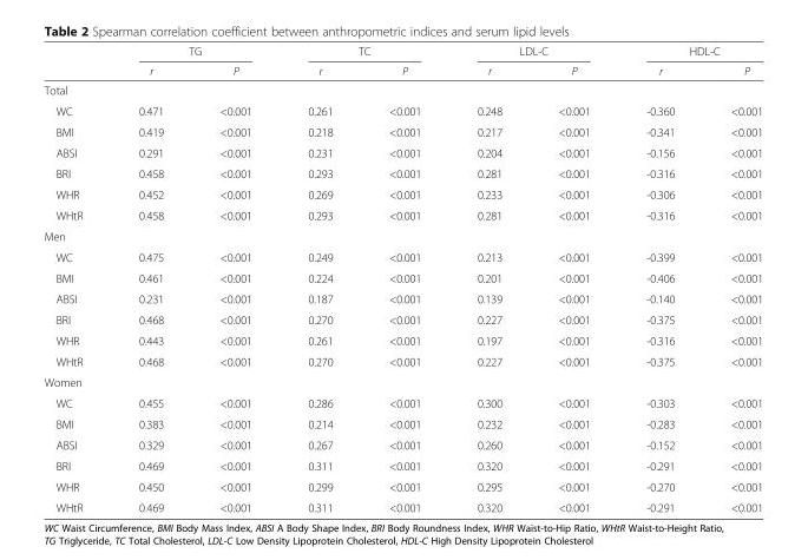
<table><thead><tr><td rowspan="2"></td><td colspan="2">TG</td><td colspan="2">TC</td><td colspan="2">LDL-C</td><td colspan="2">HDL-C</td></tr><tr><td>r</td><td>P</td><td>r</td><td>P</td><td>r</td><td>P</td><td>r</td><td>P</td></tr></thead><tbody><tr><td colspan="9">Total</td></tr><tr><td>WC</td><td>0.471</td><td>&lt;0.001</td><td>0.261</td><td>&lt;0.001</td><td>0.248</td><td>&lt;0.001</td><td>-0.360</td><td>&lt;0.001</td></tr><tr><td>BMI</td><td>0.419</td><td>&lt;0.001</td><td>0.218</td><td>&lt;0.001</td><td>0.217</td><td>&lt;0.001</td><td>-0.341</td><td>&lt;0.001</td></tr><tr><td>ABSI</td><td>0.291</td><td>&lt;0.001</td><td>0.231</td><td>&lt;0.001</td><td>0.204</td><td>&lt;0.001</td><td>-0.156</td><td>&lt;0.001</td></tr><tr><td>BRI</td><td>0.458</td><td>&lt;0.001</td><td>0.293</td><td>&lt;0.001</td><td>0.281</td><td>&lt;0.001</td><td>-0.316</td><td>&lt;0.001</td></tr><tr><td>WHR</td><td>0.452</td><td>&lt;0.001</td><td>0.269</td><td>&lt;0.001</td><td>0.233</td><td>&lt;0.001</td><td>-0.306</td><td>&lt;0.001</td></tr><tr><td>WHtR</td><td>0.458</td><td>&lt;0.001</td><td>0.293</td><td>&lt;0.001</td><td>0.281</td><td>&lt;0.001</td><td>-0.316</td><td>&lt;0.001</td></tr><tr><td colspan="9">Men</td></tr><tr><td>WC</td><td>0.475</td><td>&lt;0.001</td><td>0.249</td><td>&lt;0.001</td><td>0.213</td><td>&lt;0.001</td><td>-0.399</td><td>&lt;0.001</td></tr><tr><td>BMI</td><td>0.461</td><td>&lt;0.001</td><td>0.224</td><td>&lt;0.001</td><td>0.201</td><td>&lt;0.001</td><td>-0.406</td><td>&lt;0.001</td></tr><tr><td>ABSI</td><td>0.231</td><td>&lt;0.001</td><td>0.187</td><td>&lt;0.001</td><td>0.139</td><td>&lt;0.001</td><td>-0.140</td><td>&lt;0.001</td></tr><tr><td>BRI</td><td>0.468</td><td>&lt;0.001</td><td>0.270</td><td>&lt;0.001</td><td>0.227</td><td>&lt;0.001</td><td>-0.375</td><td>&lt;0.001</td></tr><tr><td>WHR</td><td>0.443</td><td>&lt;0.001</td><td>0.261</td><td>&lt;0.001</td><td>0.197</td><td>&lt;0.001</td><td>-0.316</td><td>&lt;0.001</td></tr><tr><td>WHtR</td><td>0.468</td><td>&lt;0.001</td><td>0.270</td><td>&lt;0.001</td><td>0.227</td><td>&lt;0.001</td><td>-0.375</td><td>&lt;0.001</td></tr><tr><td colspan="9">Women</td></tr><tr><td>WC</td><td>0.455</td><td>&lt;0.001</td><td>0.286</td><td>&lt;0.001</td><td>0.300</td><td>&lt;0.001</td><td>-0.303</td><td>&lt;0.001</td></tr><tr><td>BMI</td><td>0.383</td><td>&lt;0.001</td><td>0.214</td><td>&lt;0.001</td><td>0.232</td><td>&lt;0.001</td><td>-0.283</td><td>&lt;0.001</td></tr><tr><td>ABSI</td><td>0.329</td><td>&lt;0.001</td><td>0.267</td><td>&lt;0.001</td><td>0.260</td><td>&lt;0.001</td><td>-0.152</td><td>&lt;0.001</td></tr><tr><td>BRI</td><td>0.469</td><td>&lt;0.001</td><td>0.311</td><td>&lt;0.001</td><td>0.320</td><td>&lt;0.001</td><td>-0.291</td><td>&lt;0.001</td></tr><tr><td>WHR</td><td>0.450</td><td>&lt;0.001</td><td>0.299</td><td>&lt;0.001</td><td>0.295</td><td>&lt;0.001</td><td>-0.270</td><td>&lt;0.001</td></tr><tr><td>WHtR</td><td>0.469</td><td>&lt;0.001</td><td>0.311</td><td>&lt;0.001</td><td>0.320</td><td>&lt;0.001</td><td>-0.291</td><td>&lt;0.001</td></tr></tbody></table>